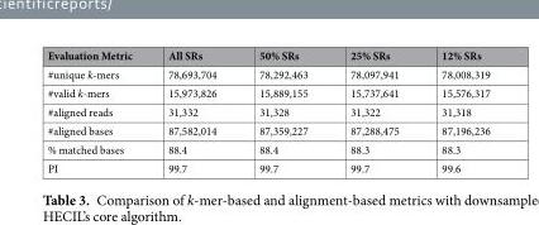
<table><thead><tr><td>Evaluation Metric</td><td>All SRs</td><td>50% SRs</td><td>25% SRs</td><td>12% SRs</td></tr></thead><tbody><tr><td>#unique k-mers</td><td>78,693,704</td><td>78,292,463</td><td>78,097,941</td><td>78,008,319</td></tr><tr><td>#valid k-mers</td><td>15,973,826</td><td>15,889,155</td><td>15,737,641</td><td>15,576,317</td></tr><tr><td>#aligned reads</td><td>31,332</td><td>31,328</td><td>31,322</td><td>31,318</td></tr><tr><td>#aligned bases</td><td>87,582,014</td><td>87,359,227</td><td>87,288,475</td><td>87,196,236</td></tr><tr><td>% matched bases</td><td>88.4</td><td>88.4</td><td>88.3</td><td>88.3</td></tr><tr><td>PI</td><td>99.7</td><td>99.7</td><td>99.7</td><td>99.6</td></tr></tbody></table>